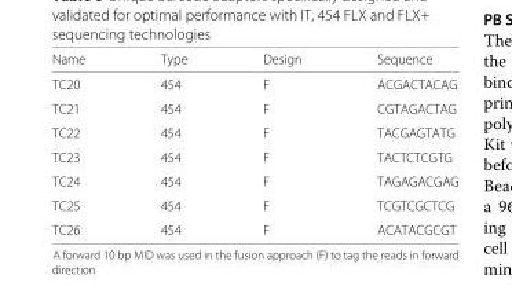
<table><thead><tr><td>Name</td><td>Type</td><td>Design</td><td>Sequence</td></tr></thead><tbody><tr><td>TC20</td><td>454</td><td>F</td><td>ACGACTACAG</td></tr><tr><td>TC21</td><td>454</td><td>F</td><td>CGTAGACTAG</td></tr><tr><td>TC22</td><td>454</td><td>F</td><td>TACGAGTATG</td></tr><tr><td>TC23</td><td>454</td><td>F</td><td>TACTCTCGTG</td></tr><tr><td>TC24</td><td>454</td><td>F</td><td>TAGAGACGAG</td></tr><tr><td>TC25</td><td>454</td><td>F</td><td>TCGTCGCTCG</td></tr><tr><td>TC26</td><td>454</td><td>F</td><td>ACATACGCGT</td></tr></tbody></table>